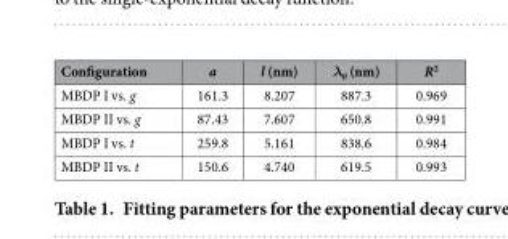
<table><thead><tr><td>Configuration</td><td>a</td><td>l (nm)</td><td>λ<sub>0</sub> (nm)</td><td>R<sup>2</sup></td></tr></thead><tbody><tr><td>MBDP I vs. g</td><td>161.3</td><td>8.207</td><td>887.3</td><td>0.969</td></tr><tr><td>MBDP II vs. g</td><td>87.43</td><td>7.607</td><td>650.8</td><td>0.991</td></tr><tr><td>MBDP I vs. t</td><td>259.8</td><td>5.161</td><td>838.6</td><td>0.984</td></tr><tr><td>MBDP II vs. t</td><td>150.6</td><td>4.740</td><td>619.5</td><td>0.993</td></tr></tbody></table>